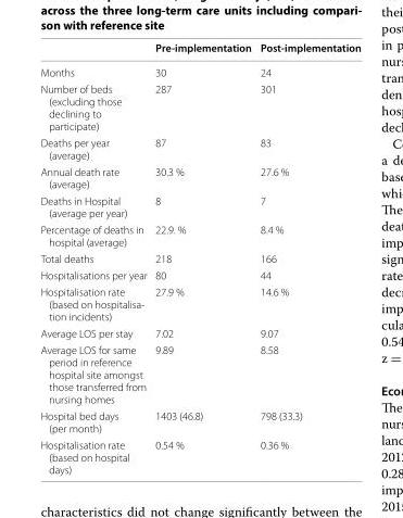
<table><thead><tr><td></td><td>Pre-implementation</td><td>Post-implementation</td></tr></thead><tbody><tr><td>Months</td><td>30</td><td>24</td></tr><tr><td>Number of beds (excluding those declining to participate)</td><td>287</td><td>301</td></tr><tr><td>Deaths per year (average)</td><td>87</td><td>83</td></tr><tr><td>Annual death rate (average)</td><td>30.3 %</td><td>27.6 %</td></tr><tr><td>Deaths in Hospital (average per year)</td><td>8</td><td>7</td></tr><tr><td>Percentage of deaths in hospital (average)</td><td>22.9. %</td><td>8.4 %</td></tr><tr><td>Total deaths</td><td>218</td><td>166</td></tr><tr><td>Hospitalisations per year</td><td>80</td><td>44</td></tr><tr><td>Hospitalisation rate (based on hospitalisa- tion incidents)</td><td>27.9 %</td><td>14.6 %</td></tr><tr><td>Average LOS per stay</td><td>7.02</td><td>9.07</td></tr><tr><td>Average LOS for same period in reference hospital site amongst those transferred from nursing homes</td><td>9.89</td><td>8.58</td></tr><tr><td>Hospital bed days (per month)</td><td>1403 (46.8)</td><td>798 (33.3)</td></tr><tr><td>Hospitalisation rate (based on hospital days)</td><td>0.54 %</td><td>0.36 %</td></tr></tbody></table>